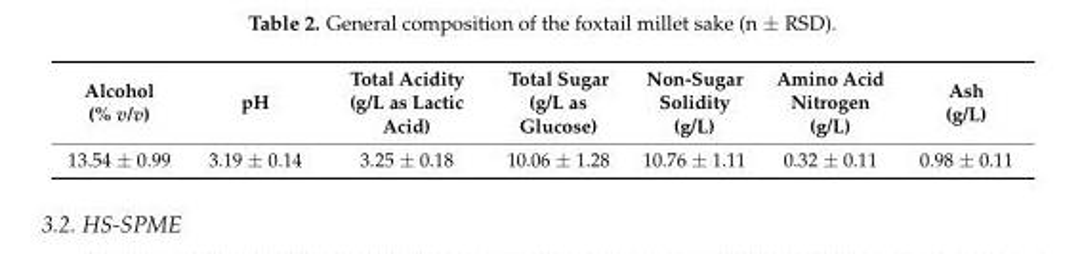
<table><thead><tr><td>Alcohol (% v/v)</td><td>pH</td><td>Total Acidity (g/L as Lactic Acid)</td><td>Total Sugar (g/L as Glucose)</td><td>Non-Sugar Solidity (g/L)</td><td>Amino Acid Nitrogen (g/L)</td><td>Ash (g/L)</td></tr></thead><tbody><tr><td>13.54 ± 0.99</td><td>3.19 ± 0.14</td><td>3.25 ± 0.18</td><td>10.06 ± 1.28</td><td>10.76 ± 1.11</td><td>0.32 ± 0.11</td><td>0.98 ± 0.11</td></tr></tbody></table>